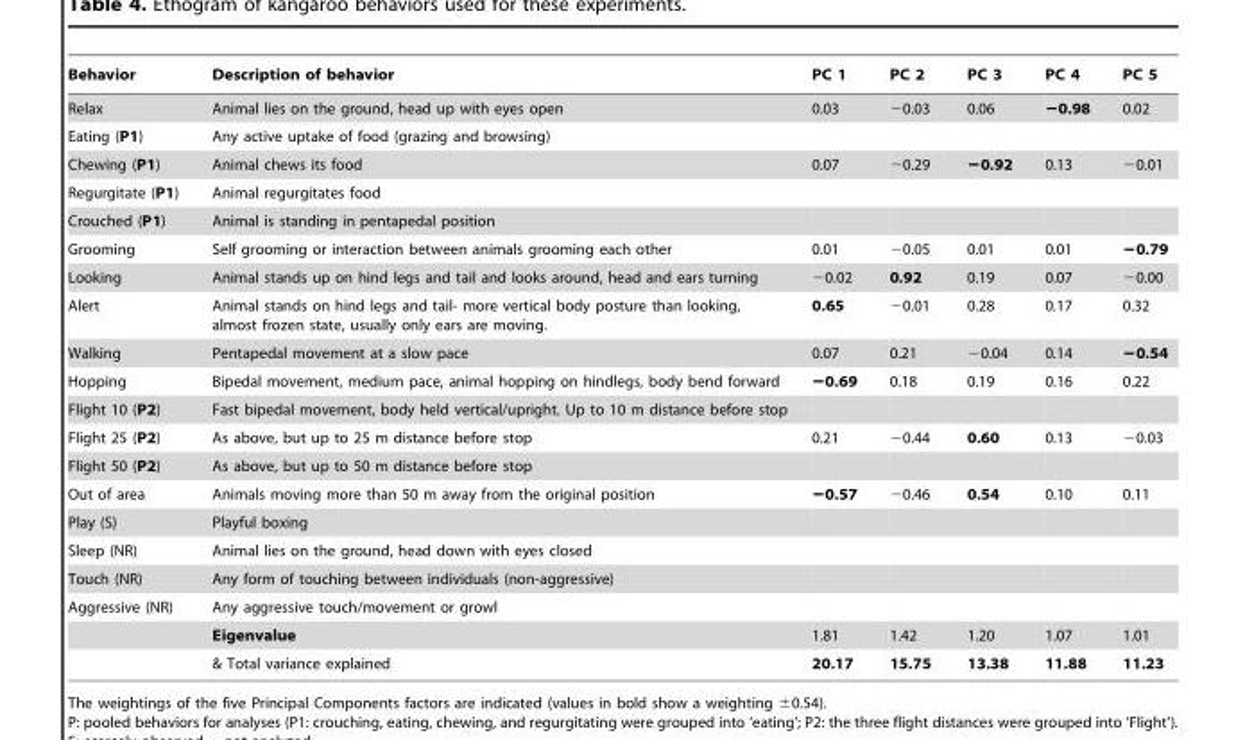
<table><thead><tr><td>Behavior</td><td>Description of behavior</td><td>PC 1</td><td>PC 2</td><td>PC 3</td><td>PC 4</td><td>PC 5</td></tr></thead><tbody><tr><td>Relax</td><td>Animal lies on the ground, head up with eyes open</td><td>0.03</td><td>−0.03</td><td>0.06</td><td>−0.98</td><td>0.02</td></tr><tr><td>Eating (P1)</td><td>Any active uptake of food (grazing and browsing)</td><td></td><td></td><td></td><td></td><td></td></tr><tr><td>Chewing (P1)</td><td>Animal chews its food</td><td>0.07</td><td>−0.29</td><td>−0.92</td><td>0.13</td><td>−0.01</td></tr><tr><td>Regurgitate (P1)</td><td>Animal regurgitates food</td><td></td><td></td><td></td><td></td><td></td></tr><tr><td>Crouched (P1)</td><td>Animal is standing in pentapedal position</td><td></td><td></td><td></td><td></td><td></td></tr><tr><td>Grooming</td><td>Self grooming or interaction between animals grooming each other</td><td>0.01</td><td>−0.05</td><td>0.01</td><td>0.01</td><td>−0.79</td></tr><tr><td>Looking</td><td>Animal stands up on hind legs and tail and looks around, head and ears turning</td><td>−0.02</td><td>0.92</td><td>0.19</td><td>0.07</td><td>−0.00</td></tr><tr><td>Alert</td><td>Animal stands on hind legs and tail- more vertical body posture than looking, almost frozen state, usually only ears are moving.</td><td>0.65</td><td>−0.01</td><td>0.28</td><td>0.17</td><td>0.32</td></tr><tr><td>Walking</td><td>Pentapedal movement at a slow pace</td><td>0.07</td><td>0.21</td><td>−0.04</td><td>0.14</td><td>−0.54</td></tr><tr><td>Hopping</td><td>Bipedal movement, medium pace, animal hopping on hindlegs, body bend forward</td><td>−0.69</td><td>0.18</td><td>0.19</td><td>0.16</td><td>0.22</td></tr><tr><td>Flight 10 (P2)</td><td>Fast bipedal movement, body held vertical/upright. Up to 10 m distance before stop</td><td></td><td></td><td></td><td></td><td></td></tr><tr><td>Flight 25 (P2)</td><td>As above, but up to 25 m distance before stop</td><td>0.21</td><td>−0.44</td><td>0.60</td><td>0.13</td><td>−0.03</td></tr><tr><td>Flight 50 (P2)</td><td>As above, but up to 50 m distance before stop</td><td></td><td></td><td></td><td></td><td></td></tr><tr><td>Out of area</td><td>Animals moving more than 50 m away from the original position</td><td>−0.57</td><td>−0.46</td><td>0.54</td><td>0.10</td><td>0.11</td></tr><tr><td>Play (S)</td><td>Playful boxing</td><td></td><td></td><td></td><td></td><td></td></tr><tr><td>Sleep (NR)</td><td>Animal lies on the ground, head down with eyes closed</td><td></td><td></td><td></td><td></td><td></td></tr><tr><td>Touch (NR)</td><td>Any form of touching between individuals (non-aggressive)</td><td></td><td></td><td></td><td></td><td></td></tr><tr><td rowspan="3">Aggressive (NR)</td><td>Any aggressive touch/movement or growl</td><td></td><td></td><td></td><td></td><td></td></tr><tr><td>Eigenvalue</td><td>1.81</td><td>1.42</td><td>1.20</td><td>1.07</td><td>1.01</td></tr><tr><td>&amp; Total variance explained</td><td>20.17</td><td>15.75</td><td>13.38</td><td>11.88</td><td>11.23</td></tr></tbody></table>